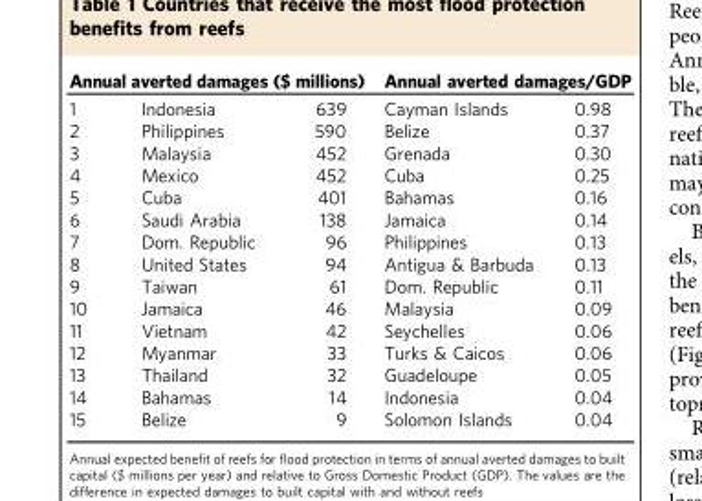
<table><thead><tr><td colspan="3">Annual averted damages ($ millions)</td><td colspan="2">Annual averted damages/GDP</td></tr><tr><td>1</td><td>Indonesia</td><td>639</td><td>Cayman Islands</td><td>0.98</td></tr></thead><tbody><tr><td>2</td><td>Philippines</td><td>590</td><td>Belize</td><td>0.37</td></tr><tr><td>3</td><td>Malaysia</td><td>452</td><td>Grenada</td><td>0.30</td></tr><tr><td>4</td><td>Mexico</td><td>452</td><td>Cuba</td><td>0.25</td></tr><tr><td>5</td><td>Cuba</td><td>401</td><td>Bahamas</td><td>0.16</td></tr><tr><td>6</td><td>Saudi Arabia</td><td>138</td><td>Jamaica</td><td>0.14</td></tr><tr><td>7</td><td>Dom. Republic</td><td>96</td><td>Philippines</td><td>0.13</td></tr><tr><td>8</td><td>United States</td><td>94</td><td>Antigua &amp; Barbuda</td><td>0.13</td></tr><tr><td>9</td><td>Taiwan</td><td>61</td><td>Dom. Republic</td><td>0.11</td></tr><tr><td>10</td><td>Jamaica</td><td>46</td><td>Malaysia</td><td>0.09</td></tr><tr><td>11</td><td>Vietnam</td><td>42</td><td>Seychelles</td><td>0.06</td></tr><tr><td>12</td><td>Myanmar</td><td>33</td><td>Turks &amp; Caicos</td><td>0.06</td></tr><tr><td>13</td><td>Thailand</td><td>32</td><td>Guadeloupe</td><td>0.05</td></tr><tr><td>14</td><td>Bahamas</td><td>14</td><td>Indonesia</td><td>0.04</td></tr><tr><td>15</td><td>Belize</td><td>9</td><td>Solomon Islands</td><td>0.04</td></tr></tbody></table>